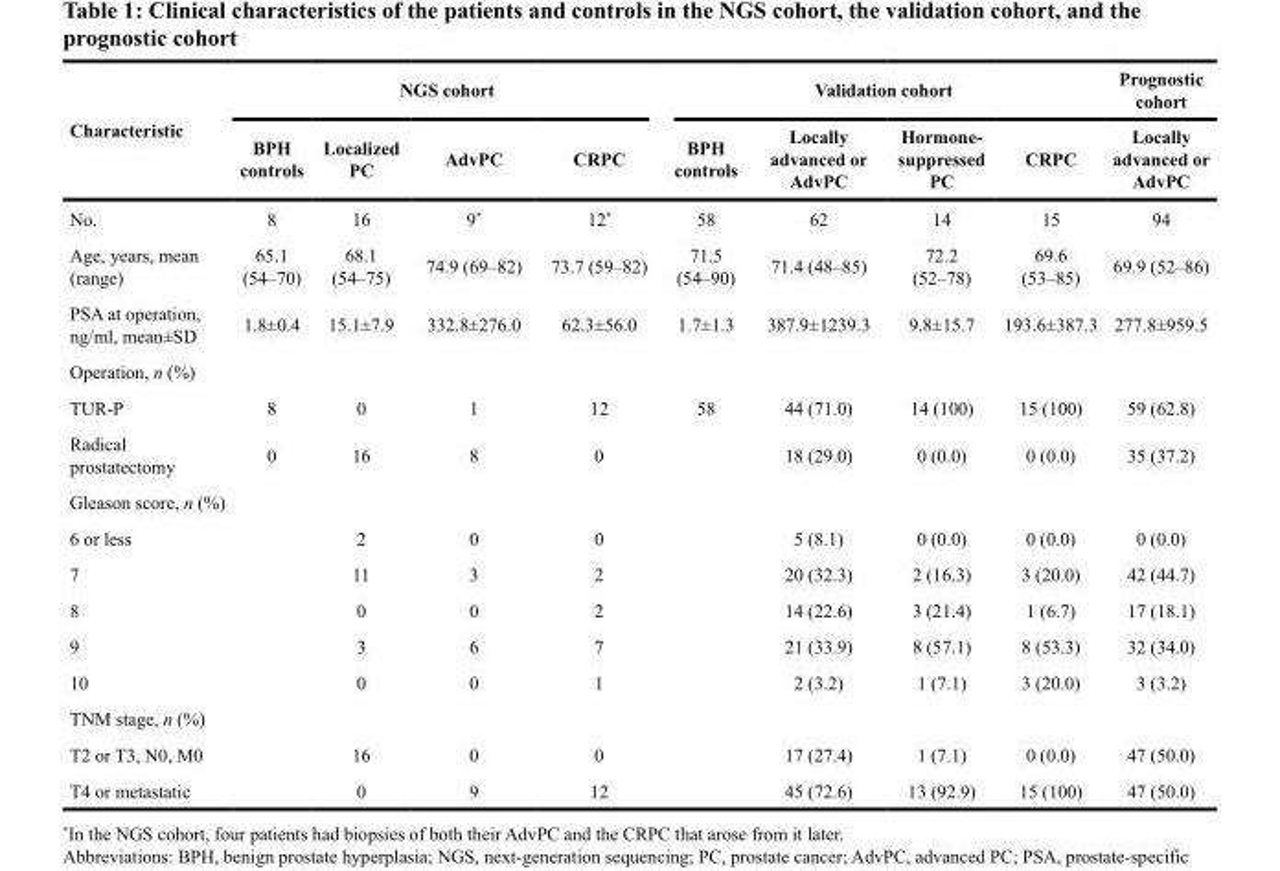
<table><thead><tr><td rowspan="2">Characteristic</td><td colspan="4">NGS cohort</td><td colspan="4">Validation cohort</td><td rowspan="2">Prognostic cohort Locally advanced or AdvPC</td></tr><tr><td>BPH controls</td><td>Localized PC</td><td>AdvPC</td><td>CRPC</td><td>BPH controls</td><td>Locally advanced or AdvPC</td><td>Hormone- suppressed PC</td><td>CRPC</td></tr></thead><tbody><tr><td>No.</td><td>8</td><td>16</td><td>9*</td><td>12*</td><td>58</td><td>62</td><td>14</td><td>15</td><td>94</td></tr><tr><td>Age, years, mean (range)</td><td>65.1 (54–70)</td><td>68.1 (54–75)</td><td>74.9 (69–82)</td><td>73.7 (59–82)</td><td>71.5 (54–90)</td><td>71.4 (48–85)</td><td>72.2 (52–78)</td><td>69.6 (53–85)</td><td>69.9 (52–86)</td></tr><tr><td>PSA at operation, ng/ml, mean±SD</td><td>1.8±0.4</td><td>15.1±7.9</td><td>332.8±276.0</td><td>62.3±56.0</td><td>1.7±1.3</td><td>387.9±1239.3</td><td>9.8±15.7</td><td>193.6±387.3</td><td>277.8±959.5</td></tr><tr><td colspan="10">Operation, n (%)</td></tr><tr><td>TUR-P</td><td>8</td><td>0</td><td>1</td><td>12</td><td>58</td><td>44 (71.0)</td><td>14 (100)</td><td>15 (100)</td><td>59 (62.8)</td></tr><tr><td>Radical prostatectomy</td><td>0</td><td>16</td><td>8</td><td>0</td><td></td><td>18 (29.0)</td><td>0 (0.0)</td><td>0 (0.0)</td><td>35 (37.2)</td></tr><tr><td colspan="10">Gleason score, n (%)</td></tr><tr><td>6 or less</td><td></td><td>2</td><td>0</td><td>0</td><td></td><td>5 (8.1)</td><td>0 (0.0)</td><td>0 (0.0)</td><td>0 (0.0)</td></tr><tr><td>7</td><td></td><td>11</td><td>3</td><td>2</td><td></td><td>20 (32.3)</td><td>2 (16.3)</td><td>3 (20.0)</td><td>42 (44.7)</td></tr><tr><td>8</td><td></td><td>0</td><td>0</td><td>2</td><td></td><td>14 (22.6)</td><td>3 (21.4)</td><td>1 (6.7)</td><td>17 (18.1)</td></tr><tr><td>9</td><td></td><td>3</td><td>6</td><td>7</td><td></td><td>21 (33.9)</td><td>8 (57.1)</td><td>8 (53.3)</td><td>32 (34.0)</td></tr><tr><td>10</td><td></td><td>0</td><td>0</td><td>1</td><td></td><td>2 (3.2)</td><td>1 (7.1)</td><td>3 (20.0)</td><td>3 (3.2)</td></tr><tr><td colspan="10">TNM stage, n (%)</td></tr><tr><td>T2 or T3, N0, M0</td><td></td><td>16</td><td>0</td><td>0</td><td></td><td>17 (27.4)</td><td>1 (7.1)</td><td>0 (0.0)</td><td>47 (50.0)</td></tr><tr><td>T4 or metastatic</td><td></td><td>0</td><td>9</td><td>12</td><td></td><td>45 (72.6)</td><td>13 (92.9)</td><td>15 (100)</td><td>47 (50.0)</td></tr></tbody></table>